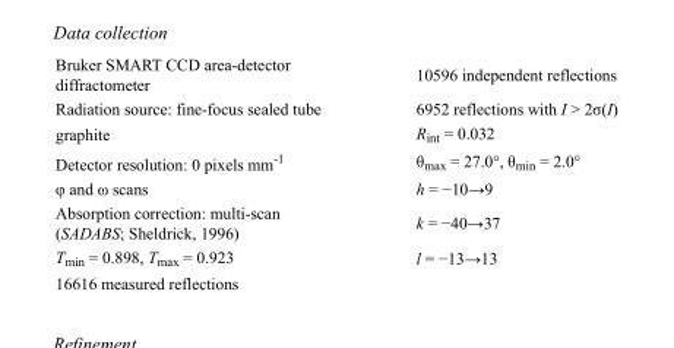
<table><tbody><tr><td>Bruker SMART CCD area-detector diffractometer</td><td>10596 independent reflections</td></tr><tr><td>Radiation source: fine-focus sealed tube</td><td>6952 reflections with I &gt; 2σ(I)</td></tr><tr><td>graphite</td><td>R<sub>int</sub> = 0.032</td></tr><tr><td>Detector resolution: 0 pixels mm<sup>-1</sup></td><td>θ<sub>max</sub> = 27.0°, θ<sub>min</sub> = 2.0°</td></tr><tr><td>φ and ω scans</td><td>h = −10→9</td></tr><tr><td>Absorption correction: multi-scan (SADABS; Sheldrick, 1996)</td><td>k = −40→37</td></tr><tr><td>T<sub>min</sub> = 0.898, T<sub>max</sub> = 0.923</td><td>l = −13→13</td></tr><tr><td>16616 measured reflections</td><td></td></tr></tbody></table>